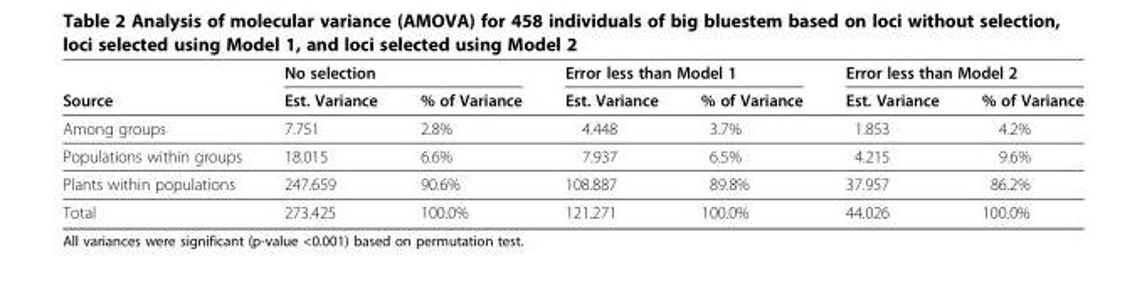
<table><thead><tr><td rowspan="2">Source</td><td colspan="2">No selection</td><td colspan="2">Error less than Model 1</td><td colspan="2">Error less than Model 2</td></tr><tr><td>Est. Variance</td><td>% of Variance</td><td>Est. Variance</td><td>% of Variance</td><td>Est. Variance</td><td>% of Variance</td></tr></thead><tbody><tr><td>Among groups</td><td>7.751</td><td>2.8%</td><td>4.448</td><td>3.7%</td><td>1.853</td><td>4.2%</td></tr><tr><td>Populations within groups</td><td>18.015</td><td>6.6%</td><td>7.937</td><td>6.5%</td><td>4.215</td><td>9.6%</td></tr><tr><td>Plants within populations</td><td>247.659</td><td>90.6%</td><td>108.887</td><td>89.8%</td><td>37.957</td><td>86.2%</td></tr><tr><td>Total</td><td>273.425</td><td>100.0%</td><td>121.271</td><td>100.0%</td><td>44.026</td><td>100.0%</td></tr></tbody></table>